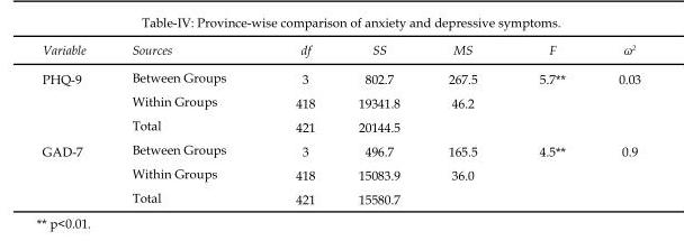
<table><thead><tr><td>Variable</td><td>Sources</td><td>df</td><td>SS</td><td>MS</td><td>F</td><td>ω<sup>2</sup></td></tr></thead><tbody><tr><td rowspan="3">PHQ-9</td><td>Between Groups</td><td>3</td><td>802.7</td><td>267.5</td><td>5.7**</td><td>0.03</td></tr><tr><td>Within Groups</td><td>418</td><td>19341.8</td><td>46.2</td><td></td><td></td></tr><tr><td>Total</td><td>421</td><td>20144.5</td><td></td><td></td><td></td></tr><tr><td rowspan="3">GAD-7</td><td>Between Groups</td><td>3</td><td>496.7</td><td>165.5</td><td>4.5**</td><td>0.9</td></tr><tr><td>Within Groups</td><td>418</td><td>15083.9</td><td>36.0</td><td></td><td></td></tr><tr><td>Total</td><td>421</td><td>15580.7</td><td></td><td></td><td></td></tr></tbody></table>